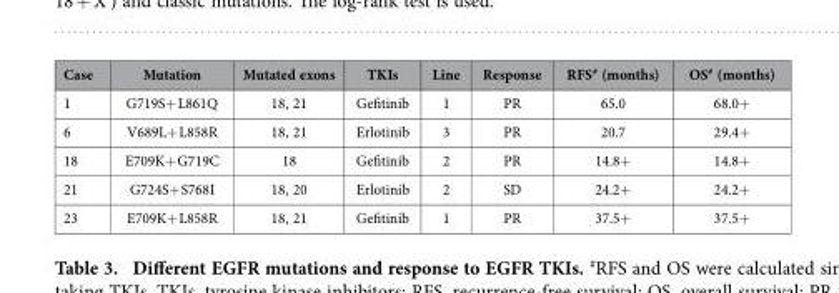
<table><thead><tr><td>Case</td><td>Mutation</td><td>Mutated exons</td><td>TKIs</td><td>Line</td><td>Response</td><td>RFS# (months)</td><td>OS# (months)</td></tr></thead><tbody><tr><td>1</td><td>G719S+ L861Q</td><td>18, 21</td><td>Gefitinib</td><td>1</td><td>PR</td><td>65.0</td><td>68.0+</td></tr><tr><td>6</td><td>V689L+ L858R</td><td>18, 21</td><td>Erlotinib</td><td>3</td><td>PR</td><td>20.7</td><td>29.4+</td></tr><tr><td>18</td><td>E709K+ G719C</td><td>18</td><td>Gefitinib</td><td>2</td><td>PR</td><td>14.8+</td><td>14.8+</td></tr><tr><td>21</td><td>G724S+ S768I</td><td>18, 20</td><td>Erlotinib</td><td>2</td><td>SD</td><td>24.2+</td><td>24.2+</td></tr><tr><td>23</td><td>E709K+ L858R</td><td>18, 21</td><td>Gefitinib</td><td>1</td><td>PR</td><td>37.5+</td><td>37.5+</td></tr></tbody></table>